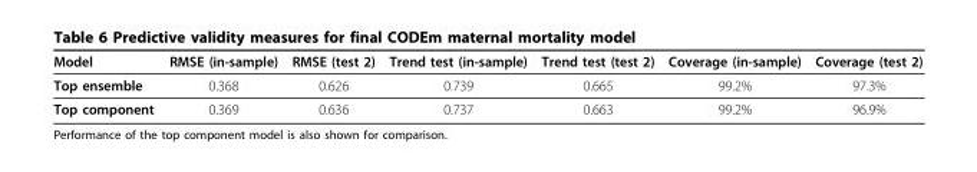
<table><thead><tr><td>Model</td><td>RMSE (in-sample)</td><td>RMSE (test 2)</td><td>Trend test (in-sample)</td><td>Trend test (test 2)</td><td>Coverage (in-sample)</td><td>Coverage (test 2)</td></tr></thead><tbody><tr><td>Top ensemble</td><td>0.368</td><td>0.626</td><td>0.739</td><td>0.665</td><td>99.2%</td><td>97.3%</td></tr><tr><td>Top component</td><td>0.369</td><td>0.636</td><td>0.737</td><td>0.663</td><td>99.2%</td><td>96.9%</td></tr></tbody></table>